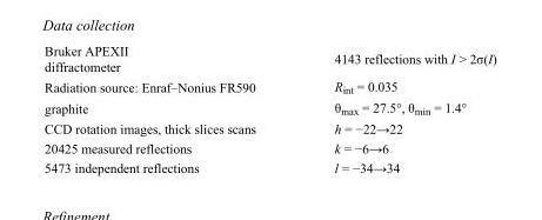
<table><tbody><tr><td>Bruker APEXII diffractometer</td><td>4143 reflections with I &gt; 2σ(I)</td></tr><tr><td>Radiation source: Enraf–Nonius FR590</td><td>R<sub>int</sub> = 0.035</td></tr><tr><td>graphite</td><td>θ<sub>max</sub> = 27.5°, θ<sub>min</sub> = 1.4°</td></tr><tr><td>CCD rotation images, thick slices scans</td><td>h = −22→22</td></tr><tr><td>20425 measured reflections</td><td>k = −6→6</td></tr><tr><td>5473 independent reflections</td><td>l = −34→34</td></tr></tbody></table>